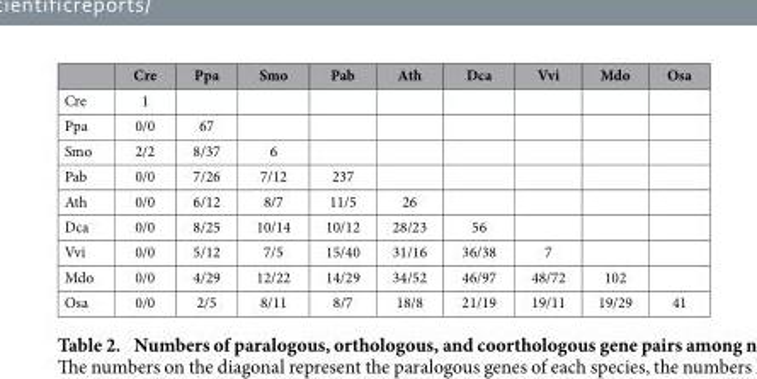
<table><thead><tr><td></td><td>Cre</td><td>Ppa</td><td>Smo</td><td>Pab</td><td>Ath</td><td>Dca</td><td>Vvi</td><td>Mdo</td><td>Osa</td></tr></thead><tbody><tr><td>Cre</td><td>1</td><td></td><td></td><td></td><td></td><td></td><td></td><td></td><td></td></tr><tr><td>Ppa</td><td>0/0</td><td>67</td><td></td><td></td><td></td><td></td><td></td><td></td><td></td></tr><tr><td>Smo</td><td>2/2</td><td>8/37</td><td>6</td><td></td><td></td><td></td><td></td><td></td><td></td></tr><tr><td>Pab</td><td>0/0</td><td>7/26</td><td>7/12</td><td>237</td><td></td><td></td><td></td><td></td><td></td></tr><tr><td>Ath</td><td>0/0</td><td>6/12</td><td>8/7</td><td>11/5</td><td>26</td><td></td><td></td><td></td><td></td></tr><tr><td>Dca</td><td>0/0</td><td>8/25</td><td>10/14</td><td>10/12</td><td>28/23</td><td>56</td><td></td><td></td><td></td></tr><tr><td>Vvi</td><td>0/0</td><td>5/12</td><td>7/5</td><td>15/40</td><td>31/16</td><td>36/38</td><td>7</td><td></td><td></td></tr><tr><td>Mdo</td><td>0/0</td><td>4/29</td><td>12/22</td><td>14/29</td><td>34/52</td><td>46/97</td><td>48/72</td><td>102</td><td></td></tr><tr><td>Osa</td><td>0/0</td><td>2/5</td><td>8/11</td><td>8/7</td><td>18/8</td><td>21/19</td><td>19/11</td><td>19/29</td><td>41</td></tr></tbody></table>